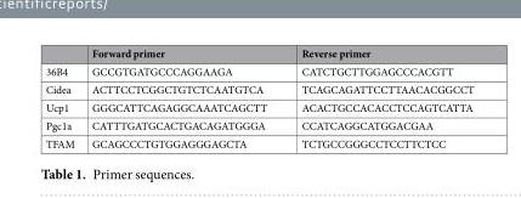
<table><thead><tr><td></td><td>Forward primer</td><td>Reverse primer</td></tr></thead><tbody><tr><td>36B4</td><td>GCCGTGATGCCCAGGAAGA</td><td>CATCTGCTTGGAGCCCACGTT</td></tr><tr><td>Cidea</td><td>ACTTCCTCGGCTGTCTCAATGTCA</td><td>TCAGCAGATTCCTTAACACGGCCT</td></tr><tr><td>Ucp1</td><td>GGGCATTCAGAGGCAAATCAGCTT</td><td>ACACTGCCACACCTCCAGTCATTA</td></tr><tr><td>Pgc1a</td><td>CATTTGATGCACTGACAGATGGGA</td><td>CCATCAGGCATGGACGAA</td></tr><tr><td>TFAM</td><td>GCAGCCCTGTGGAGGGAGCTA</td><td>TCTGCCGGGCCTCCTTCTCC</td></tr></tbody></table>